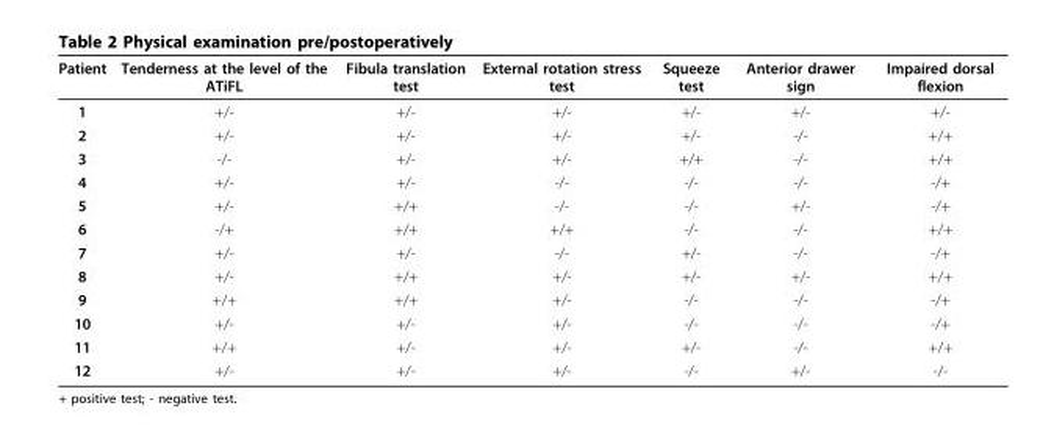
<table><thead><tr><td>Patient</td><td>Tenderness at the level of the ATiFL</td><td>Fibula translation test</td><td>External rotation stress test</td><td>Squeeze test</td><td>Anterior drawer sign</td><td>Impaired dorsal flexion</td></tr></thead><tbody><tr><td>1</td><td>+/-</td><td>+/-</td><td>+/-</td><td>+/-</td><td>+/-</td><td>+/-</td></tr><tr><td>2</td><td>+/-</td><td>+/-</td><td>+/-</td><td>+/-</td><td>-/-</td><td>+/+</td></tr><tr><td>3</td><td>-/-</td><td>+/-</td><td>+/-</td><td>+/+</td><td>-/-</td><td>+/+</td></tr><tr><td>4</td><td>+/-</td><td>+/-</td><td>-/-</td><td>-/-</td><td>-/-</td><td>-/+</td></tr><tr><td>5</td><td>+/-</td><td>+/+</td><td>-/-</td><td>-/-</td><td>+/-</td><td>-/+</td></tr><tr><td>6</td><td>-/+</td><td>+/+</td><td>+/+</td><td>-/-</td><td>-/-</td><td>+/+</td></tr><tr><td>7</td><td>+/-</td><td>+/-</td><td>-/-</td><td>+/-</td><td>-/-</td><td>-/+</td></tr><tr><td>8</td><td>+/-</td><td>+/+</td><td>+/-</td><td>+/-</td><td>+/-</td><td>+/+</td></tr><tr><td>9</td><td>+/+</td><td>+/+</td><td>+/-</td><td>-/-</td><td>-/-</td><td>-/+</td></tr><tr><td>10</td><td>+/-</td><td>+/-</td><td>+/-</td><td>-/-</td><td>-/-</td><td>-/+</td></tr><tr><td>11</td><td>+/+</td><td>+/-</td><td>+/-</td><td>+/-</td><td>-/-</td><td>+/+</td></tr><tr><td>12</td><td>+/-</td><td>+/-</td><td>+/-</td><td>-/-</td><td>+/-</td><td>-/-</td></tr></tbody></table>